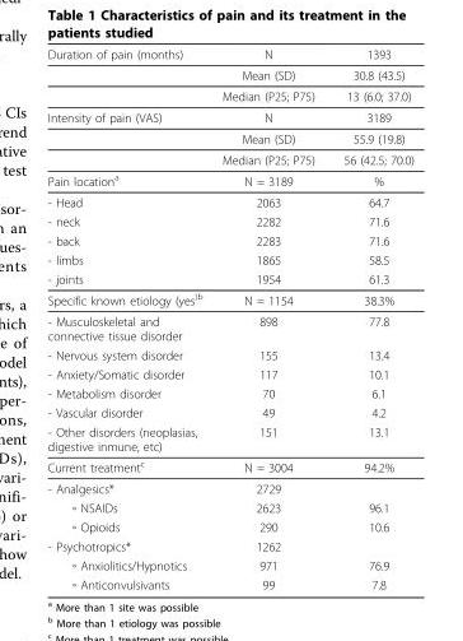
<table><thead><tr><td>Duration of pain (months)</td><td>N</td><td>1393</td></tr></thead><tbody><tr><td></td><td>Mean (SD)</td><td>30.8 (43.5)</td></tr><tr><td></td><td>Median (P25; P75)</td><td>13 (6.0; 37.0)</td></tr><tr><td rowspan="3">Intensity of pain (VAS)</td><td>N</td><td>3189</td></tr><tr><td>Mean (SD)</td><td>55.9 (19.8)</td></tr><tr><td>Median (P25; P75)</td><td>56 (42.5; 70.0)</td></tr><tr><td>Pain location<sup>a</sup></td><td>N = 3189</td><td>%</td></tr><tr><td>- Head</td><td>2063</td><td>64.7</td></tr><tr><td>- neck</td><td>2282</td><td>71.6</td></tr><tr><td>- back</td><td>2283</td><td>71.6</td></tr><tr><td>- limbs</td><td>1865</td><td>58.5</td></tr><tr><td>- joints</td><td>1954</td><td>61.3</td></tr><tr><td>Specific known etiology (yes<sup>)b</sup></td><td>N = 1154</td><td>38.3%</td></tr><tr><td>- Musculoskeletal and connective tissue disorder</td><td>898</td><td>77.8</td></tr><tr><td>- Nervous system disorder</td><td>155</td><td>13.4</td></tr><tr><td>- Anxiety/Somatic disorder</td><td>117</td><td>10.1</td></tr><tr><td>- Metabolism disorder</td><td>70</td><td>6.1</td></tr><tr><td>- Vascular disorder</td><td>49</td><td>4.2</td></tr><tr><td>- Other disorders (neoplasias, digestive inmune, etc)</td><td>151</td><td>13.1</td></tr><tr><td>Current treatment<sup>c</sup></td><td>N = 3004</td><td>94.2%</td></tr><tr><td>- Analgesics*</td><td>2729</td><td></td></tr><tr><td>◦ NSAIDs</td><td>2623</td><td>96.1</td></tr><tr><td>◦ Opioids</td><td>290</td><td>10.6</td></tr><tr><td>- Psychotropics*</td><td>1262</td><td></td></tr><tr><td>◦ Anxiolitics/Hypnotics</td><td>971</td><td>76.9</td></tr><tr><td>◦ Anticonvulsivants</td><td>99</td><td>7.8</td></tr></tbody></table>